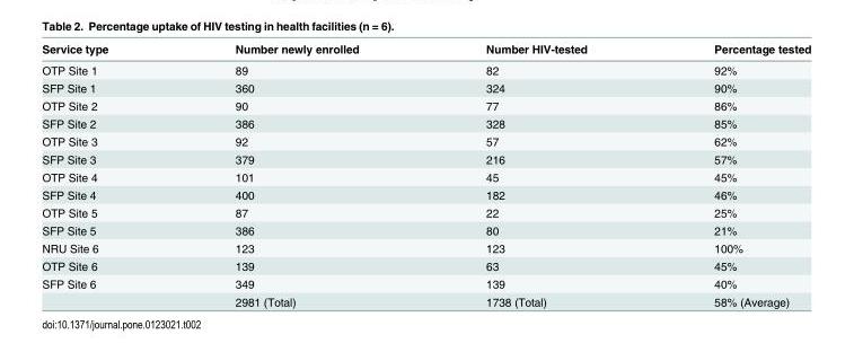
<table><thead><tr><td>Service type</td><td>Number newly enrolled</td><td>Number HIV-tested</td><td>Percentage tested</td></tr></thead><tbody><tr><td>OTP Site 1</td><td>89</td><td>82</td><td>92%</td></tr><tr><td>SFP Site 1</td><td>360</td><td>324</td><td>90%</td></tr><tr><td>OTP Site 2</td><td>90</td><td>77</td><td>86%</td></tr><tr><td>SFP Site 2</td><td>386</td><td>328</td><td>85%</td></tr><tr><td>OTP Site 3</td><td>92</td><td>57</td><td>62%</td></tr><tr><td>SFP Site 3</td><td>379</td><td>216</td><td>57%</td></tr><tr><td>OTP Site 4</td><td>101</td><td>45</td><td>45%</td></tr><tr><td>SFP Site 4</td><td>400</td><td>182</td><td>46%</td></tr><tr><td>OTP Site 5</td><td>87</td><td>22</td><td>25%</td></tr><tr><td>SFP Site 5</td><td>386</td><td>80</td><td>21%</td></tr><tr><td>NRU Site 6</td><td>123</td><td>123</td><td>100%</td></tr><tr><td>OTP Site 6</td><td>139</td><td>63</td><td>45%</td></tr><tr><td rowspan="2">SFP Site 6</td><td>349</td><td>139</td><td>40%</td></tr><tr><td>2981 (Total)</td><td>1738 (Total)</td><td>58% (Average)</td></tr></tbody></table>